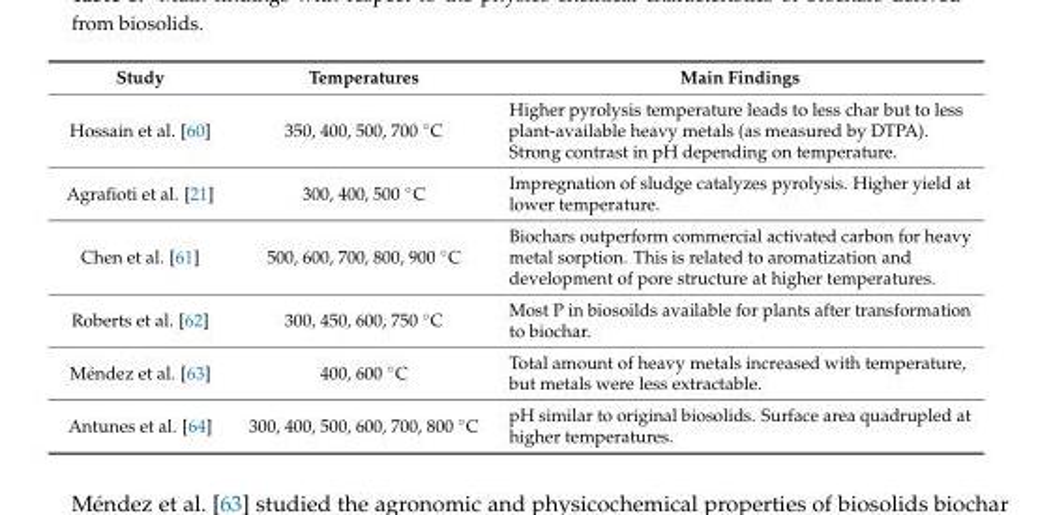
<table><thead><tr><td>Study</td><td>Temperatures</td><td>Main Findings</td></tr></thead><tbody><tr><td>Hossain et al. [60]</td><td>350, 400, 500, 700 ◦C</td><td>Higher pyrolysis temperature leads to less char but to less plant-available heavy metals (as measured by DTPA). Strong contrast in pH depending on temperature.</td></tr><tr><td>Agrafioti et al. [21]</td><td>300, 400, 500 ◦C</td><td>Impregnation of sludge catalyzes pyrolysis. Higher yield at lower temperature.</td></tr><tr><td>Chen et al. [61]</td><td>500, 600, 700, 800, 900 ◦C</td><td>Biochars outperform commercial activated carbon for heavy metal sorption. This is related to aromatization and development of pore structure at higher temperatures.</td></tr><tr><td>Roberts et al. [62]</td><td>300, 450, 600, 750 ◦C</td><td>Most P in biosoilds available for plants after transformation to biochar.</td></tr><tr><td>Méndez et al. [63]</td><td>400, 600 ◦C</td><td>Total amount of heavy metals increased with temperature, but metals were less extractable.</td></tr><tr><td>Antunes et al. [64]</td><td>300, 400, 500, 600, 700, 800 ◦C</td><td>pH similar to original biosolids. Surface area quadrupled at higher temperatures.</td></tr></tbody></table>